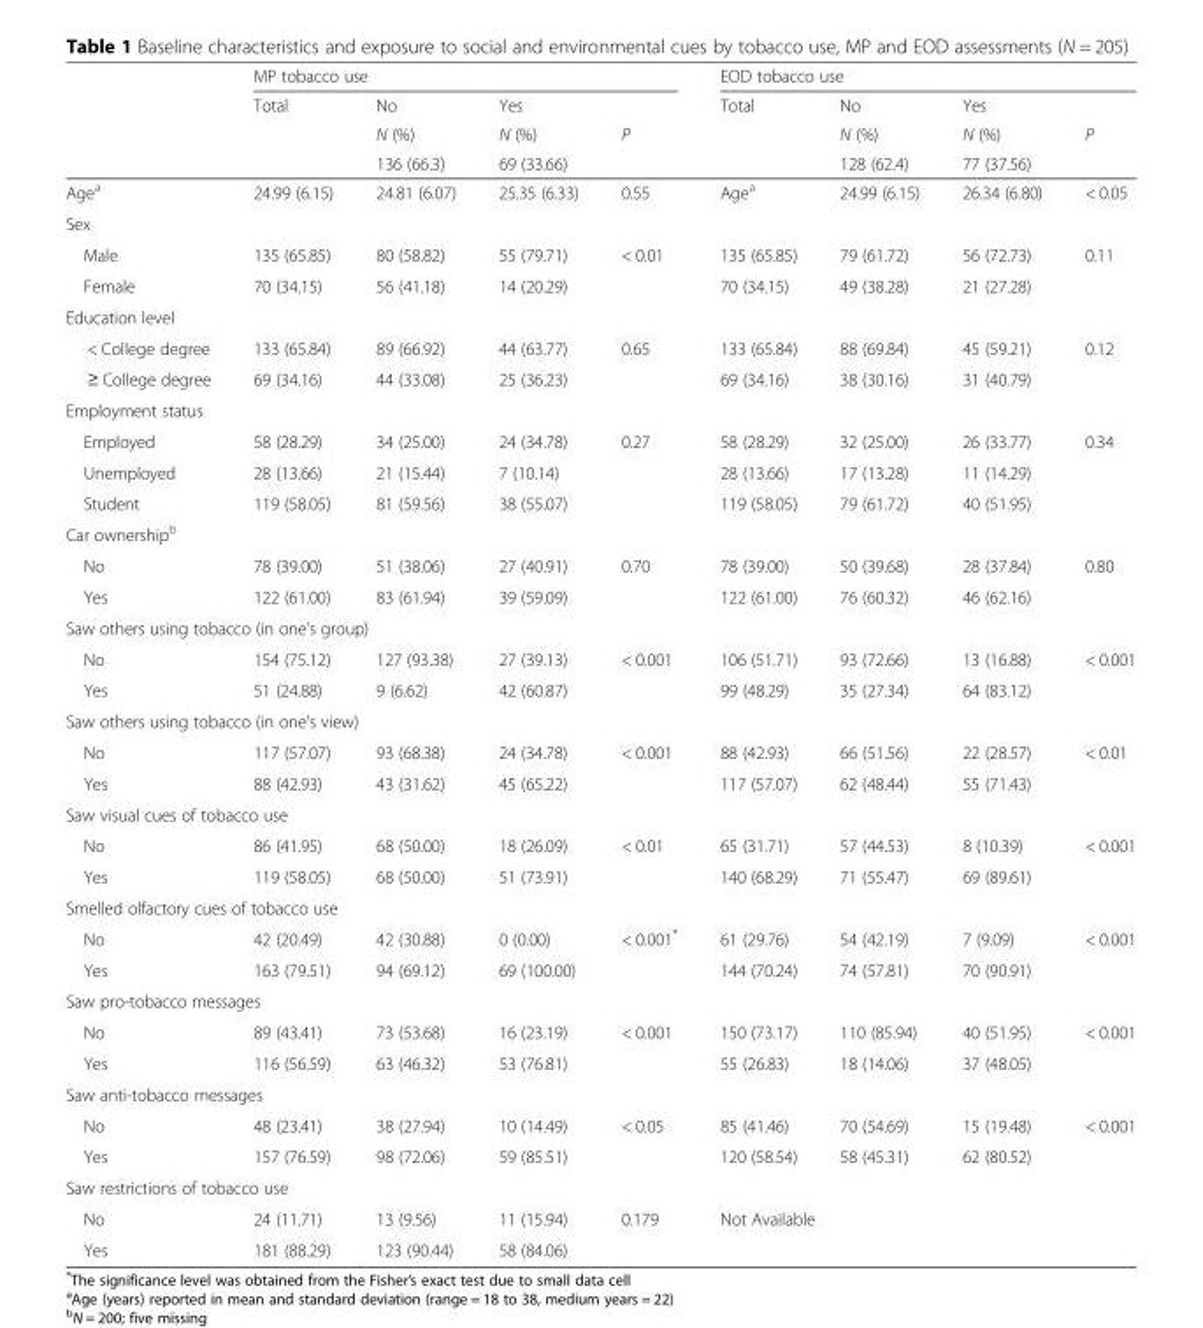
<table><thead><tr><td rowspan="4"></td><td colspan="4">MP tobacco use</td><td colspan="4">EOD tobacco use</td></tr><tr><td rowspan="3">Total</td><td rowspan="3">No N (%) 136 (66.3)</td><td rowspan="3">Yes N (%) 69 (33.66)</td><td rowspan="3">P</td><td rowspan="3">Total</td><td rowspan="3">No N (%) 128 (62.4)</td><td rowspan="3">Yes N (%) 77 (37.56)</td><td rowspan="3">P</td></tr><tr></tr><tr></tr></thead><tbody><tr><td>Age<sup>a</sup></td><td>24.99 (6.15)</td><td>24.81 (6.07)</td><td>25.35 (6.33)</td><td>0.55</td><td>Age<sup>a</sup></td><td>24.99 (6.15)</td><td>26.34 (6.80)</td><td>&lt; 0.05</td></tr><tr><td colspan="9">Sex</td></tr><tr><td>Male</td><td>135 (65.85)</td><td>80 (58.82)</td><td>55 (79.71)</td><td rowspan="2">&lt; 0.01</td><td>135 (65.85)</td><td>79 (61.72)</td><td>56 (72.73)</td><td rowspan="2">0.11</td></tr><tr><td>Female</td><td>70 (34.15)</td><td>56 (41.18)</td><td>14 (20.29)</td><td>70 (34.15)</td><td>49 (38.28)</td><td>21 (27.28)</td></tr><tr><td colspan="9">Education level</td></tr><tr><td>&lt; College degree</td><td>133 (65.84)</td><td>89 (66.92)</td><td>44 (63.77)</td><td rowspan="2">0.65</td><td>133 (65.84)</td><td>88 (69.84)</td><td>45 (59.21)</td><td rowspan="2">0.12</td></tr><tr><td>≥ College degree</td><td>69 (34.16)</td><td>44 (33.08)</td><td>25 (36.23)</td><td>69 (34.16)</td><td>38 (30.16)</td><td>31 (40.79)</td></tr><tr><td colspan="9">Employment status</td></tr><tr><td>Employed</td><td>58 (28.29)</td><td>34 (25.00)</td><td>24 (34.78)</td><td rowspan="3">0.27</td><td>58 (28.29)</td><td>32 (25.00)</td><td>26 (33.77)</td><td rowspan="3">0.34</td></tr><tr><td>Unemployed</td><td>28 (13.66)</td><td>21 (15.44)</td><td>7 (10.14)</td><td>28 (13.66)</td><td>17 (13.28)</td><td>11 (14.29)</td></tr><tr><td>Student</td><td>119 (58.05)</td><td>81 (59.56)</td><td>38 (55.07)</td><td>119 (58.05)</td><td>79 (61.72)</td><td>40 (51.95)</td></tr><tr><td colspan="9">Car ownership<sup>b</sup></td></tr><tr><td>No</td><td>78 (39.00)</td><td>51 (38.06)</td><td>27 (40.91)</td><td rowspan="2">0.70</td><td>78 (39.00)</td><td>50 (39.68)</td><td>28 (37.84)</td><td rowspan="2">0.80</td></tr><tr><td>Yes</td><td>122 (61.00)</td><td>83 (61.94)</td><td>39 (59.09)</td><td>122 (61.00)</td><td>76 (60.32)</td><td>46 (62.16)</td></tr><tr><td colspan="9">Saw others using tobacco (in one’s group)</td></tr><tr><td>No</td><td>154 (75.12)</td><td>127 (93.38)</td><td>27 (39.13)</td><td>&lt; 0.001</td><td>106 (51.71)</td><td>93 (72.66)</td><td>13 (16.88)</td><td>&lt; 0.001</td></tr><tr><td>Yes</td><td>51 (24.88)</td><td>9 (6.62)</td><td>42 (60.87)</td><td></td><td>99 (48.29)</td><td>35 (27.34)</td><td>64 (83.12)</td><td></td></tr><tr><td colspan="9">Saw others using tobacco (in one’s view)</td></tr><tr><td>No</td><td>117 (57.07)</td><td>93 (68.38)</td><td>24 (34.78)</td><td>&lt; 0.001</td><td>88 (42.93)</td><td>66 (51.56)</td><td>22 (28.57)</td><td>&lt; 0.01</td></tr><tr><td>Yes</td><td>88 (42.93)</td><td>43 (31.62)</td><td>45 (65.22)</td><td></td><td>117 (57.07)</td><td>62 (48.44)</td><td>55 (71.43)</td><td></td></tr><tr><td colspan="9">Saw visual cues of tobacco use</td></tr><tr><td>No</td><td>86 (41.95)</td><td>68 (50.00)</td><td>18 (26.09)</td><td>&lt; 0.01</td><td>65 (31.71)</td><td>57 (44.53)</td><td>8 (10.39)</td><td>&lt; 0.001</td></tr><tr><td>Yes</td><td>119 (58.05)</td><td>68 (50.00)</td><td>51 (73.91)</td><td></td><td>140 (68.29)</td><td>71 (55.47)</td><td>69 (89.61)</td><td></td></tr><tr><td colspan="9">Smelled olfactory cues of tobacco use</td></tr><tr><td>No</td><td>42 (20.49)</td><td>42 (30.88)</td><td>0 (0.00)</td><td>&lt; 0.001*</td><td>61 (29.76)</td><td>54 (42.19)</td><td>7 (9.09)</td><td>&lt; 0.001</td></tr><tr><td>Yes</td><td>163 (79.51)</td><td>94 (69.12)</td><td>69 (100.00)</td><td></td><td>144 (70.24)</td><td>74 (57.81)</td><td>70 (90.91)</td><td></td></tr><tr><td colspan="9">Saw pro-tobacco messages</td></tr><tr><td>No</td><td>89 (43.41)</td><td>73 (53.68)</td><td>16 (23.19)</td><td>&lt; 0.001</td><td>150 (73.17)</td><td>110 (85.94)</td><td>40 (51.95)</td><td>&lt; 0.001</td></tr><tr><td>Yes</td><td>116 (56.59)</td><td>63 (46.32)</td><td>53 (76.81)</td><td></td><td>55 (26.83)</td><td>18 (14.06)</td><td>37 (48.05)</td><td></td></tr><tr><td colspan="9">Saw anti-tobacco messages</td></tr><tr><td>No</td><td>48 (23.41)</td><td>38 (27.94)</td><td>10 (14.49)</td><td>&lt; 0.05</td><td>85 (41.46)</td><td>70 (54.69)</td><td>15 (19.48)</td><td>&lt; 0.001</td></tr><tr><td>Yes</td><td>157 (76.59)</td><td>98 (72.06)</td><td>59 (85.51)</td><td></td><td>120 (58.54)</td><td>58 (45.31)</td><td>62 (80.52)</td><td></td></tr><tr><td colspan="9">Saw restrictions of tobacco use</td></tr><tr><td>No</td><td>24 (11.71)</td><td>13 (9.56)</td><td>11 (15.94)</td><td>0.179</td><td rowspan="2" colspan="4">Not Available</td></tr><tr><td>Yes</td><td>181 (88.29)</td><td>123 (90.44)</td><td>58 (84.06)</td><td></td></tr></tbody></table>